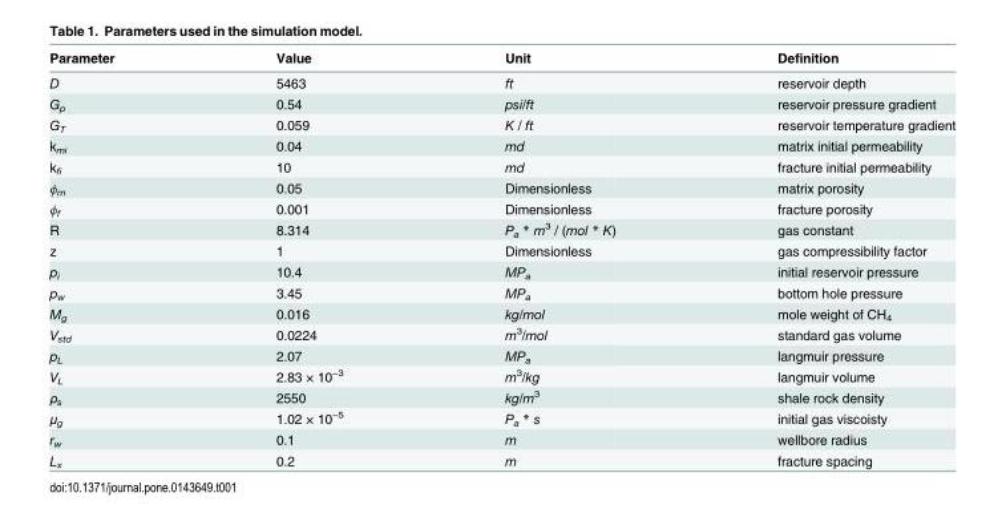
<table><thead><tr><td>Parameter</td><td>Value</td><td>Unit</td><td>Definition</td></tr></thead><tbody><tr><td>D</td><td>5463</td><td>ft</td><td>reservoir depth</td></tr><tr><td>G<sub>p</sub></td><td>0.54</td><td>psi/ft</td><td>reservoir pressure gradient</td></tr><tr><td>G<sub>T</sub></td><td>0.059</td><td>K / ft</td><td>reservoir temperature gradient</td></tr><tr><td>k<sub>mi</sub></td><td>0.04</td><td>md</td><td>matrix initial permeability</td></tr><tr><td>k<sub>fi</sub></td><td>10</td><td>md</td><td>fracture initial permeability</td></tr><tr><td>ϕ<sub>m</sub></td><td>0.05</td><td>Dimensionless</td><td>matrix porosity</td></tr><tr><td>ϕ<sub>f</sub></td><td>0.001</td><td>Dimensionless</td><td>fracture porosity</td></tr><tr><td>R</td><td>8.314</td><td>P<sub>a</sub> * m<sup>3</sup> / (mol * K)</td><td>gas constant</td></tr><tr><td>z</td><td>1</td><td>Dimensionless</td><td>gas compressibility factor</td></tr><tr><td>p<sub>i</sub></td><td>10.4</td><td>MP<sub>a</sub></td><td>initial reservoir pressure</td></tr><tr><td>p<sub>w</sub></td><td>3.45</td><td>MP<sub>a</sub></td><td>bottom hole pressure</td></tr><tr><td>M<sub>g</sub></td><td>0.016</td><td>kg/mol</td><td>mole weight of CH<sub>4</sub></td></tr><tr><td>V<sub>std</sub></td><td>0.0224</td><td>m<sup>3</sup>/mol</td><td>standard gas volume</td></tr><tr><td>p<sub>L</sub></td><td>2.07</td><td>MP<sub>a</sub></td><td>langmuir pressure</td></tr><tr><td>V<sub>L</sub></td><td>2.83 × 10<sup>−3</sup></td><td>m<sup>3</sup>/kg</td><td>langmuir volume</td></tr><tr><td>ρ<sub>s</sub></td><td>2550</td><td>kg/m<sup>3</sup></td><td>shale rock density</td></tr><tr><td>μ<sub>g</sub></td><td>1.02 × 10<sup>−5</sup></td><td>P<sub>a</sub> * s</td><td>initial gas viscoisty</td></tr><tr><td>r<sub>w</sub></td><td>0.1</td><td>m</td><td>wellbore radius</td></tr><tr><td>L<sub>x</sub></td><td>0.2</td><td>m</td><td>fracture spacing</td></tr></tbody></table>